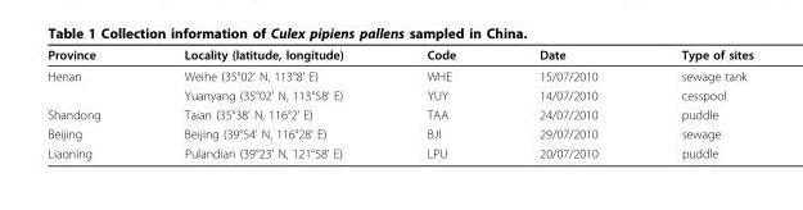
<table><thead><tr><td>Province</td><td>Locality (latitude, longitude)</td><td>Code</td><td>Date</td><td>Type of sites</td></tr></thead><tbody><tr><td rowspan="2">Henan</td><td>Weihe (35°02’ N, 113°8’ E)</td><td>WHE</td><td>15/07/2010</td><td>sewage tank</td></tr><tr><td>Yuanyang (35°02’ N, 113°58’ E)</td><td>YUY</td><td>14/07/2010</td><td>cesspool</td></tr><tr><td>Shandong</td><td>Taian (35°38’ N, 116°2’ E)</td><td>TAA</td><td>24/07/2010</td><td>puddle</td></tr><tr><td>Beijing</td><td>Beijing (39°54’ N, 116°28’ E)</td><td>BJI</td><td>29/07/2010</td><td>sewage</td></tr><tr><td>Liaoning</td><td>Pulandian (39°23’ N, 121°58’ E)</td><td>LPU</td><td>20/07/2010</td><td>puddle</td></tr></tbody></table>